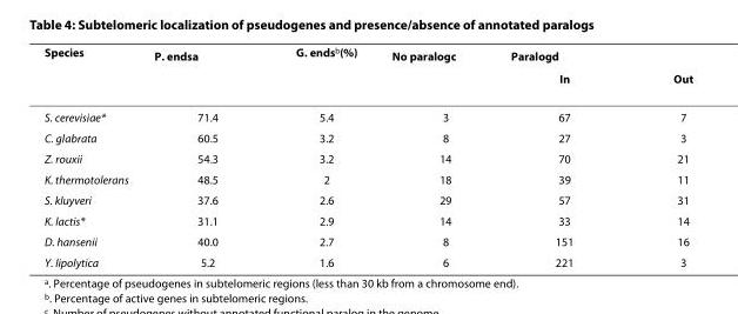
<table><thead><tr><td rowspan="2">Species</td><td rowspan="2">P. ends<sup>a</sup></td><td rowspan="2">G. ends<sup>b</sup>(%)</td><td rowspan="2">No paralog<sup>c</sup></td><td colspan="2">Paralog<sup>d</sup></td></tr><tr><td>In</td><td>Out</td></tr></thead><tbody><tr><td>S. cerevisiae*</td><td>71.4</td><td>5.4</td><td>3</td><td>67</td><td>7</td></tr><tr><td>C. glabrata</td><td>60.5</td><td>3.2</td><td>8</td><td>27</td><td>3</td></tr><tr><td>Z. rouxii</td><td>54.3</td><td>3.2</td><td>14</td><td>70</td><td>21</td></tr><tr><td>K. thermotolerans</td><td>48.5</td><td>2</td><td>18</td><td>39</td><td>11</td></tr><tr><td>S. kluyveri</td><td>37.6</td><td>2.6</td><td>29</td><td>57</td><td>31</td></tr><tr><td>K. lactis*</td><td>31.1</td><td>2.9</td><td>14</td><td>33</td><td>14</td></tr><tr><td>D. hansenii</td><td>40.0</td><td>2.7</td><td>8</td><td>151</td><td>16</td></tr><tr><td>Y. lipolytica</td><td>5.2</td><td>1.6</td><td>6</td><td>221</td><td>3</td></tr></tbody></table>